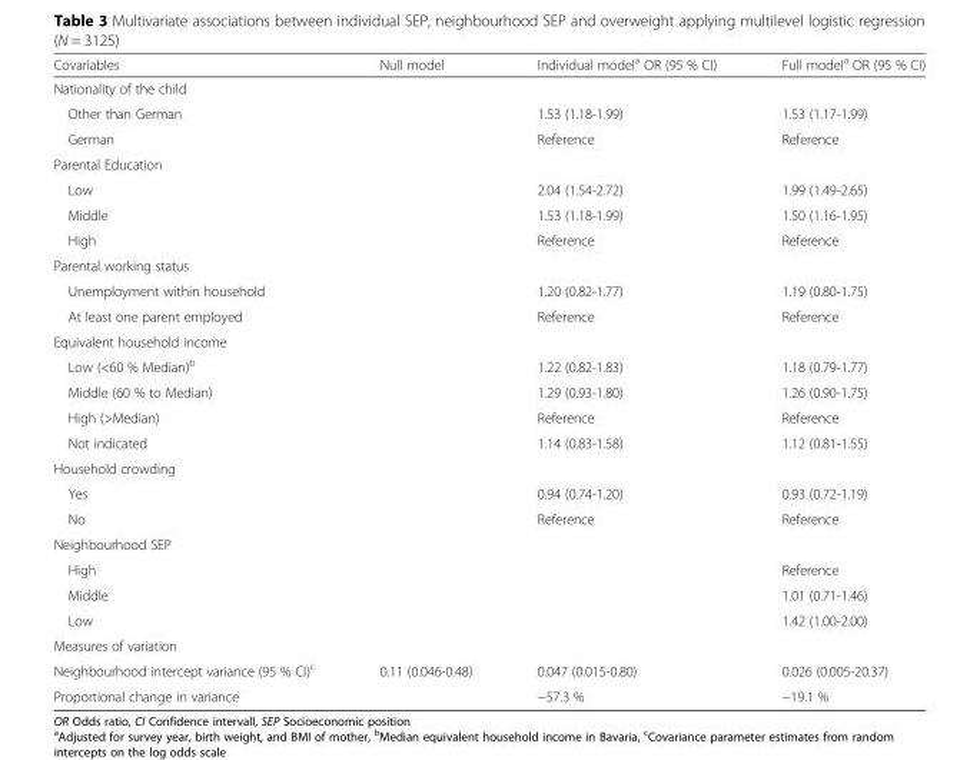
<table><thead><tr><td>Covariables</td><td>Null model</td><td>Individual model<sup>a</sup> OR (95 % CI)</td><td>Full model<sup>a</sup> OR (95 % CI)</td></tr></thead><tbody><tr><td colspan="4">Nationality of the child</td></tr><tr><td>Other than German</td><td></td><td>1.53 (1.18-1.99)</td><td>1.53 (1.17-1.99)</td></tr><tr><td>German</td><td></td><td>Reference</td><td>Reference</td></tr><tr><td colspan="4">Parental Education</td></tr><tr><td>Low</td><td></td><td>2.04 (1.54-2.72)</td><td>1.99 (1.49-2.65)</td></tr><tr><td>Middle</td><td></td><td>1.53 (1.18-1.99)</td><td>1.50 (1.16-1.95)</td></tr><tr><td>High</td><td></td><td>Reference</td><td>Reference</td></tr><tr><td colspan="4">Parental working status</td></tr><tr><td>Unemployment within household</td><td></td><td>1.20 (0.82-1.77)</td><td>1.19 (0.80-1.75)</td></tr><tr><td>At least one parent employed</td><td></td><td>Reference</td><td>Reference</td></tr><tr><td colspan="4">Equivalent household income</td></tr><tr><td>Low (&lt;60 % Median)<sup>b</sup></td><td></td><td>1.22 (0.82-1.83)</td><td>1.18 (0.79-1.77)</td></tr><tr><td>Middle (60 % to Median)</td><td></td><td>1.29 (0.93-1.80)</td><td>1.26 (0.90-1.75)</td></tr><tr><td>High (&gt;Median)</td><td></td><td>Reference</td><td>Reference</td></tr><tr><td>Not indicated</td><td></td><td>1.14 (0.83-1.58)</td><td>1.12 (0.81-1.55)</td></tr><tr><td colspan="4">Household crowding</td></tr><tr><td>Yes</td><td></td><td>0.94 (0.74-1.20)</td><td>0.93 (0.72-1.19)</td></tr><tr><td>No</td><td></td><td>Reference</td><td>Reference</td></tr><tr><td colspan="4">Neighbourhood SEP</td></tr><tr><td>High</td><td></td><td></td><td>Reference</td></tr><tr><td>Middle</td><td></td><td></td><td>1.01 (0.71-1.46)</td></tr><tr><td>Low</td><td></td><td></td><td>1.42 (1.00-2.00)</td></tr><tr><td colspan="4">Measures of variation</td></tr><tr><td>Neighbourhood intercept variance (95 % CI)<sup>c</sup></td><td>0.11 (0.046-0.48)</td><td>0.047 (0.015-0.80)</td><td>0.026 (0.005-20.37)</td></tr><tr><td>Proportional change in variance</td><td></td><td>−57.3 %</td><td>−19.1 %</td></tr></tbody></table>